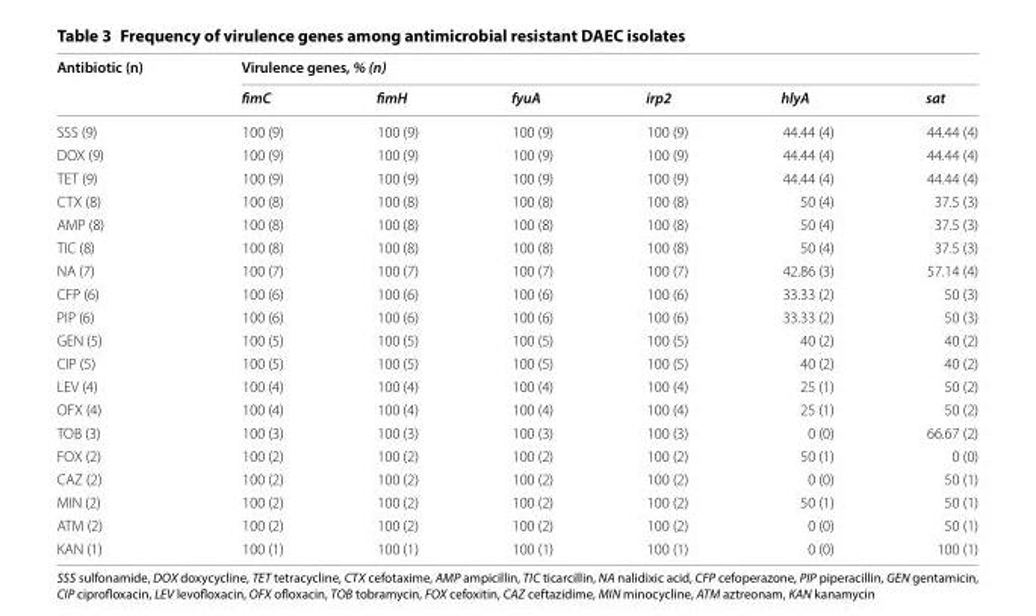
<table><thead><tr><td rowspan="2">Antibiotic (n)</td><td colspan="6">Virulence genes, % (n)</td></tr><tr><td>fimC</td><td>fimH</td><td>fyuA</td><td>irp2</td><td>hlyA</td><td>sat</td></tr></thead><tbody><tr><td>SSS (9)</td><td>100 (9)</td><td>100 (9)</td><td>100 (9)</td><td>100 (9)</td><td>44.44 (4)</td><td>44.44 (4)</td></tr><tr><td>DOX (9)</td><td>100 (9)</td><td>100 (9)</td><td>100 (9)</td><td>100 (9)</td><td>44.44 (4)</td><td>44.44 (4)</td></tr><tr><td>TET (9)</td><td>100 (9)</td><td>100 (9)</td><td>100 (9)</td><td>100 (9)</td><td>44.44 (4)</td><td>44.44 (4)</td></tr><tr><td>CTX (8)</td><td>100 (8)</td><td>100 (8)</td><td>100 (8)</td><td>100 (8)</td><td>50 (4)</td><td>37.5 (3)</td></tr><tr><td>AMP (8)</td><td>100 (8)</td><td>100 (8)</td><td>100 (8)</td><td>100 (8)</td><td>50 (4)</td><td>37.5 (3)</td></tr><tr><td>TIC (8)</td><td>100 (8)</td><td>100 (8)</td><td>100 (8)</td><td>100 (8)</td><td>50 (4)</td><td>37.5 (3)</td></tr><tr><td>NA (7)</td><td>100 (7)</td><td>100 (7)</td><td>100 (7)</td><td>100 (7)</td><td>42.86 (3)</td><td>57.14 (4)</td></tr><tr><td>CFP (6)</td><td>100 (6)</td><td>100 (6)</td><td>100 (6)</td><td>100 (6)</td><td>33.33 (2)</td><td>50 (3)</td></tr><tr><td>PIP (6)</td><td>100 (6)</td><td>100 (6)</td><td>100 (6)</td><td>100 (6)</td><td>33.33 (2)</td><td>50 (3)</td></tr><tr><td>GEN (5)</td><td>100 (5)</td><td>100 (5)</td><td>100 (5)</td><td>100 (5)</td><td>40 (2)</td><td>40 (2)</td></tr><tr><td>CIP (5)</td><td>100 (5)</td><td>100 (5)</td><td>100 (5)</td><td>100 (5)</td><td>40 (2)</td><td>40 (2)</td></tr><tr><td>LEV (4)</td><td>100 (4)</td><td>100 (4)</td><td>100 (4)</td><td>100 (4)</td><td>25 (1)</td><td>50 (2)</td></tr><tr><td>OFX (4)</td><td>100 (4)</td><td>100 (4)</td><td>100 (4)</td><td>100 (4)</td><td>25 (1)</td><td>50 (2)</td></tr><tr><td>TOB (3)</td><td>100 (3)</td><td>100 (3)</td><td>100 (3)</td><td>100 (3)</td><td>0 (0)</td><td>66.67 (2)</td></tr><tr><td>FOX (2)</td><td>100 (2)</td><td>100 (2)</td><td>100 (2)</td><td>100 (2)</td><td>50 (1)</td><td>0 (0)</td></tr><tr><td>CAZ (2)</td><td>100 (2)</td><td>100 (2)</td><td>100 (2)</td><td>100 (2)</td><td>0 (0)</td><td>50 (1)</td></tr><tr><td>MIN (2)</td><td>100 (2)</td><td>100 (2)</td><td>100 (2)</td><td>100 (2)</td><td>50 (1)</td><td>50 (1)</td></tr><tr><td>ATM (2)</td><td>100 (2)</td><td>100 (2)</td><td>100 (2)</td><td>100 (2)</td><td>0 (0)</td><td>50 (1)</td></tr><tr><td>KAN (1)</td><td>100 (1)</td><td>100 (1)</td><td>100 (1)</td><td>100 (1)</td><td>0 (0)</td><td>100 (1)</td></tr></tbody></table>